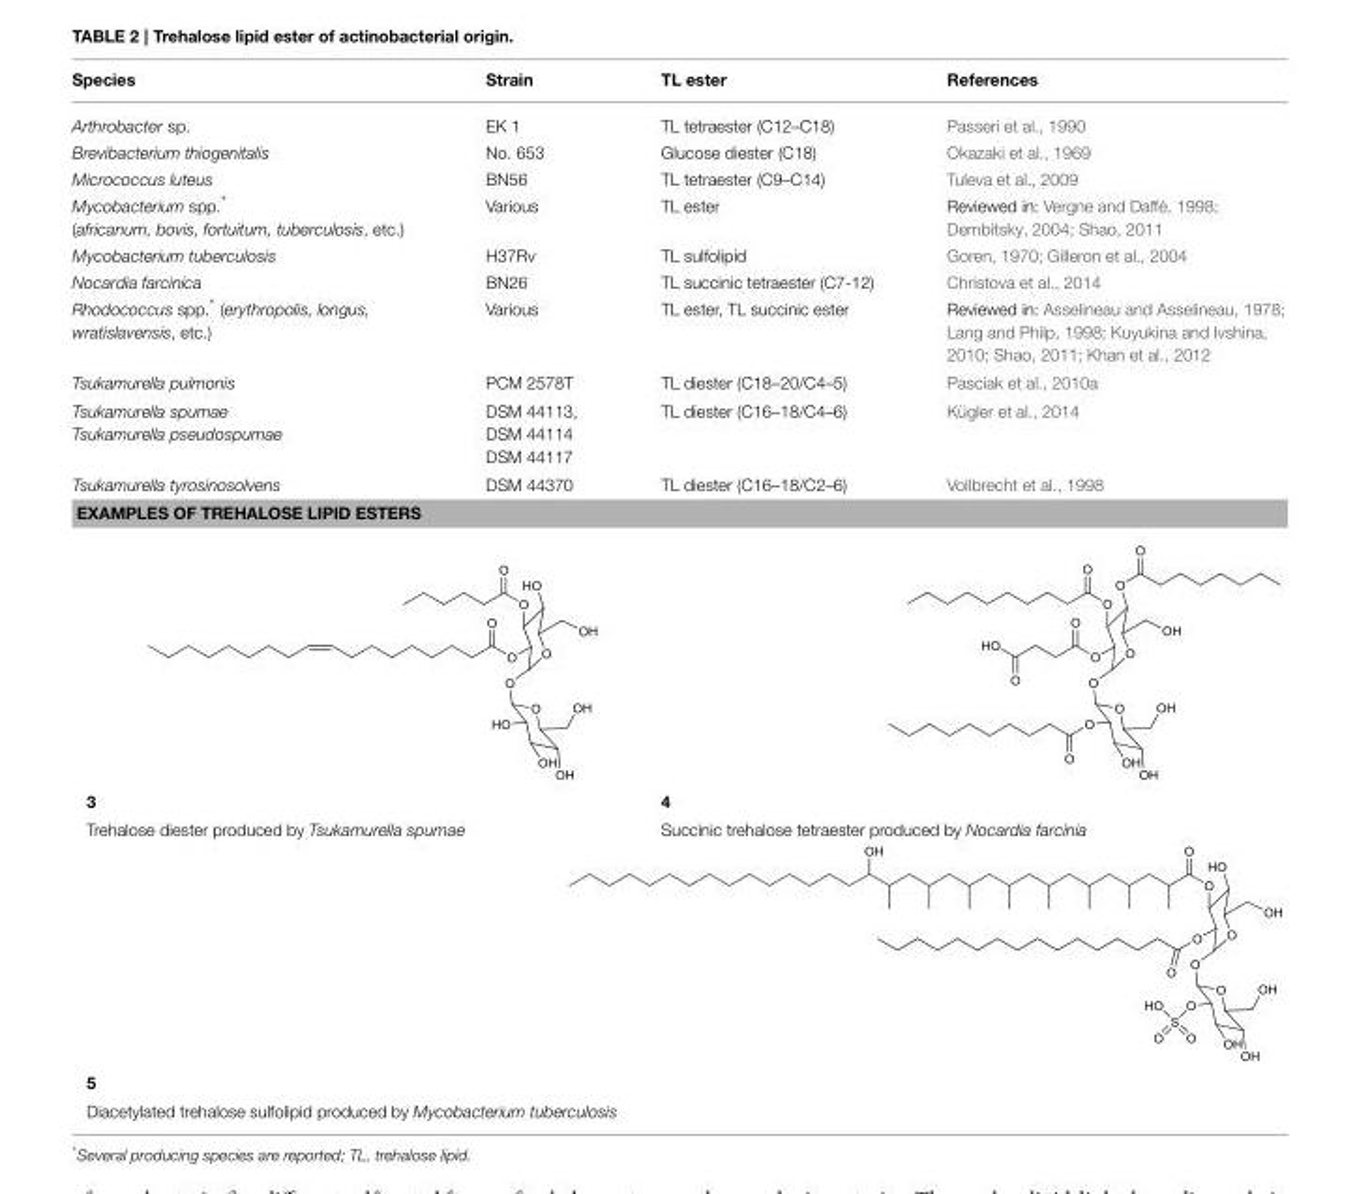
<table><thead><tr><td>Species</td><td>Strain</td><td>TL ester</td><td>References</td></tr></thead><tbody><tr><td>Arthrobacter sp.</td><td>EK 1</td><td>TL tetraester (C12–C18)</td><td>Passeri et al., 1990</td></tr><tr><td>Brevibacterium thiogenitalis</td><td>No. 653</td><td>Glucose diester (C18)</td><td>Okazaki et al., 1969</td></tr><tr><td>Micrococcus luteus</td><td>BN56</td><td>TL tetraester (C9–C14)</td><td>Tuleva et al., 2009</td></tr><tr><td>Mycobacterium spp.* (africanum, bovis, fortuitum, tuberculosis, etc.)</td><td>Various</td><td>TL ester</td><td>Reviewed in: Vergne and Daffé, 1998; Dembitsky, 2004; Shao, 2011</td></tr><tr><td>Mycobacterium tuberculosis</td><td>H37Rv</td><td>TL sulfolipid</td><td>Goren, 1970; Gilleron et al., 2004</td></tr><tr><td>Nocardia farcinica</td><td>BN26</td><td>TL succinic tetraester (C7-12)</td><td>Christova et al., 2014</td></tr><tr><td>Rhodococcus spp.* (erythropolis, longus, wratislavensis, etc.)</td><td>Various</td><td>TL ester, TL succinic ester</td><td>Reviewed in: Asselineau and Asselineau, 1978; Lang and Philp, 1998; Kuyukina and Ivshina, 2010; Shao, 2011; Khan et al., 2012</td></tr><tr><td>Tsukamurella pulmonis</td><td>PCM 2578T</td><td>TL diester (C18–20/C4–5)</td><td>Pasciak et al., 2010a</td></tr><tr><td>Tsukamurella spumae Tsukamurella pseudospumae</td><td>DSM 44113, DSM 44114 DSM 44117</td><td>TL diester (C16–18/C4–6)</td><td>Kügler et al., 2014</td></tr><tr><td>Tsukamurella tyrosinosolvens</td><td>DSM 44370</td><td>TL diester (C16–18/C2–6)</td><td>Vollbrecht et al., 1998</td></tr><tr><td colspan="4">EXAMPLES OF TREHALOSE LIPID ESTERS</td></tr><tr><td colspan="2">3</td><td colspan="2">4</td></tr><tr><td colspan="2">Trehalose diester produced by Tsukamurella spumae</td><td colspan="2">Succinic trehalose tetraester produced by Nocardia farcinia</td></tr><tr><td colspan="4">5</td></tr><tr><td colspan="4">Diacetylated trehalose sulfolipid produced by Mycobacterium tuberculosis</td></tr></tbody></table>